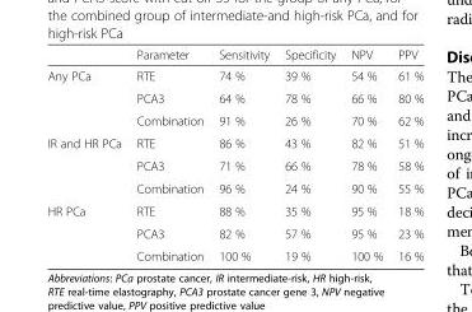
<table><thead><tr><td></td><td>Parameter</td><td>Sensitivity</td><td>Specificity</td><td>NPV</td><td>PPV</td></tr></thead><tbody><tr><td rowspan="3">Any PCa</td><td>RTE</td><td>74 %</td><td>39 %</td><td>54 %</td><td>61 %</td></tr><tr><td>PCA3</td><td>64 %</td><td>78 %</td><td>66 %</td><td>80 %</td></tr><tr><td>Combination</td><td>91 %</td><td>26 %</td><td>70 %</td><td>62 %</td></tr><tr><td rowspan="3">IR and HR PCa</td><td>RTE</td><td>86 %</td><td>43 %</td><td>82 %</td><td>51 %</td></tr><tr><td>PCA3</td><td>71 %</td><td>66 %</td><td>78 %</td><td>58 %</td></tr><tr><td>Combination</td><td>96 %</td><td>24 %</td><td>90 %</td><td>55 %</td></tr><tr><td rowspan="3">HR PCa</td><td>RTE</td><td>88 %</td><td>35 %</td><td>95 %</td><td>18 %</td></tr><tr><td>PCA3</td><td>82 %</td><td>57 %</td><td>95 %</td><td>23 %</td></tr><tr><td>Combination</td><td>100 %</td><td>19 %</td><td>100 %</td><td>16 %</td></tr></tbody></table>